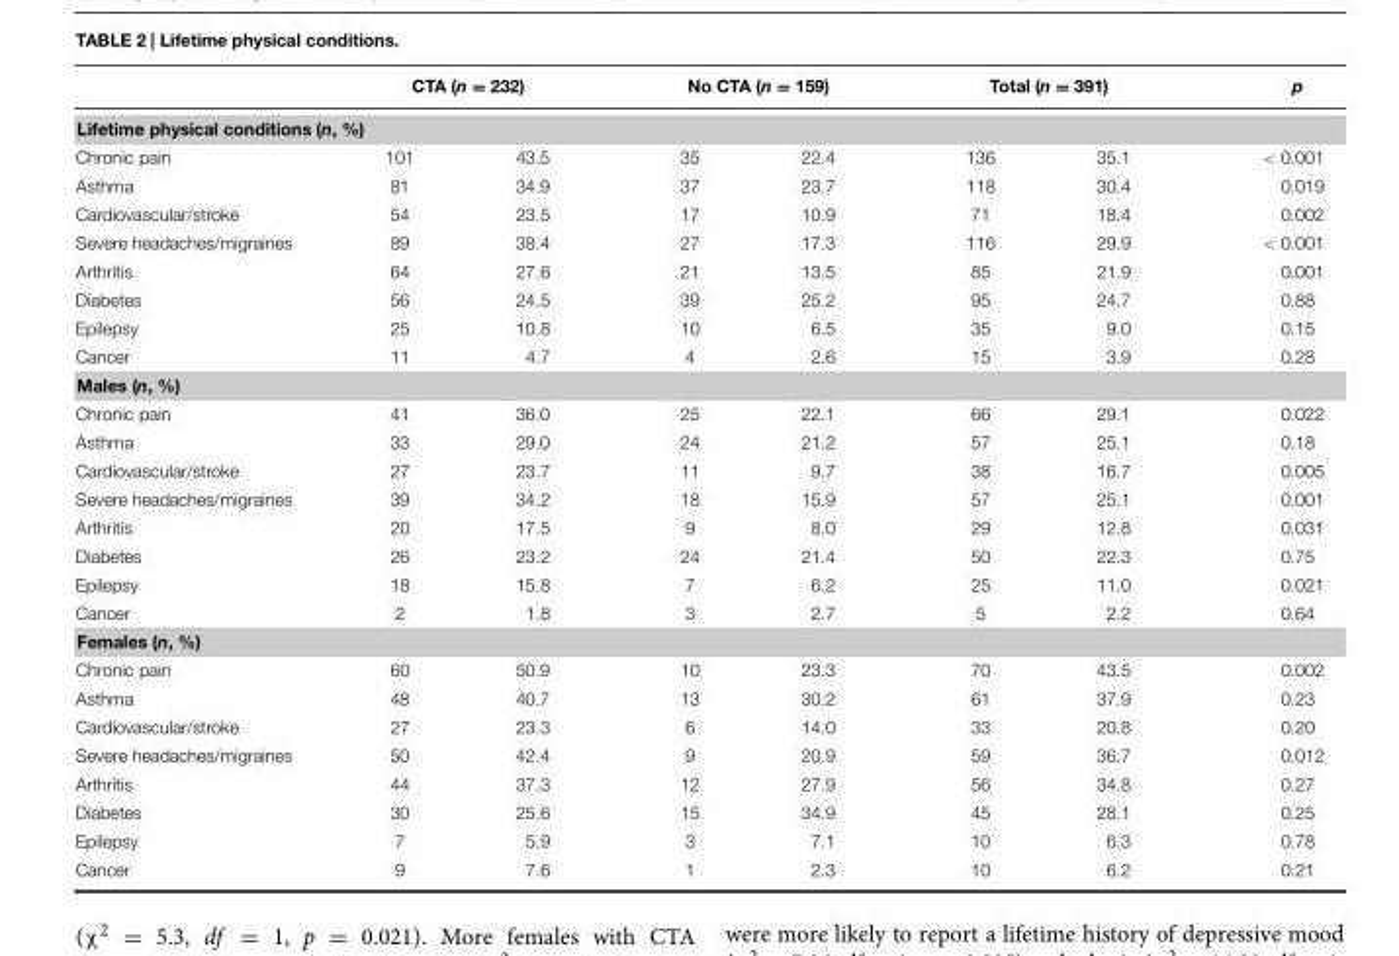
<table><thead><tr><td></td><td colspan="2">CTA (n = 232)</td><td colspan="2">No CTA (n = 159)</td><td colspan="2">Total (n = 391)</td><td>p</td></tr><tr><td colspan="8">Lifetime physical conditions (n, %)</td></tr><tr><td>Chronic pain</td><td>101</td><td>43.5</td><td>35</td><td>22.4</td><td>136</td><td>35.1</td><td>&lt; 0.001</td></tr></thead><tbody><tr><td>Asthma</td><td>81</td><td>34.9</td><td>37</td><td>23.7</td><td>118</td><td>30.4</td><td>0.019</td></tr><tr><td>Cardiovascular/stroke</td><td>54</td><td>23.5</td><td>17</td><td>10.9</td><td>71</td><td>18.4</td><td>0.002</td></tr><tr><td>Severe headaches/migraines</td><td>89</td><td>38.4</td><td>27</td><td>17.3</td><td>116</td><td>29.9</td><td>&lt; 0.001</td></tr><tr><td>Arthritis</td><td>64</td><td>27.6</td><td>21</td><td>13.5</td><td>85</td><td>21.9</td><td>0.001</td></tr><tr><td>Diabetes</td><td>56</td><td>24.5</td><td>39</td><td>25.2</td><td>95</td><td>24.7</td><td>0.88</td></tr><tr><td>Epilepsy</td><td>25</td><td>10.8</td><td>10</td><td>6.5</td><td>35</td><td>9.0</td><td>0.15</td></tr><tr><td>Cancer</td><td>11</td><td>4.7</td><td>4</td><td>2.6</td><td>15</td><td>3.9</td><td>0.28</td></tr><tr><td colspan="8">Males (n, %)</td></tr><tr><td>Chronic pain</td><td>41</td><td>36.0</td><td>25</td><td>22.1</td><td>66</td><td>29.1</td><td>0.022</td></tr><tr><td>Asthma</td><td>33</td><td>29.0</td><td>24</td><td>21.2</td><td>57</td><td>25.1</td><td>0.18</td></tr><tr><td>Cardiovascular/stroke</td><td>27</td><td>23.7</td><td>11</td><td>9.7</td><td>38</td><td>16.7</td><td>0.005</td></tr><tr><td>Severe headaches/migraines</td><td>39</td><td>34.2</td><td>18</td><td>15.9</td><td>57</td><td>25.1</td><td>0.001</td></tr><tr><td>Arthritis</td><td>20</td><td>17.5</td><td>9</td><td>8.0</td><td>29</td><td>12.8</td><td>0.031</td></tr><tr><td>Diabetes</td><td>26</td><td>23.2</td><td>24</td><td>21.4</td><td>50</td><td>22.3</td><td>0.75</td></tr><tr><td>Epilepsy</td><td>18</td><td>15.8</td><td>7</td><td>6.2</td><td>25</td><td>11.0</td><td>0.021</td></tr><tr><td>Cancer</td><td>2</td><td>1.8</td><td>3</td><td>2.7</td><td>5</td><td>2.2</td><td>0.64</td></tr><tr><td colspan="8">Females (n, %)</td></tr><tr><td>Chronic pain</td><td>60</td><td>50.9</td><td>10</td><td>23.3</td><td>70</td><td>43.5</td><td>0.002</td></tr><tr><td>Asthma</td><td>48</td><td>40.7</td><td>13</td><td>30.2</td><td>61</td><td>37.9</td><td>0.23</td></tr><tr><td>Cardiovascular/stroke</td><td>27</td><td>23.3</td><td>6</td><td>14.0</td><td>33</td><td>20.8</td><td>0.20</td></tr><tr><td>Severe headaches/migraines</td><td>50</td><td>42.4</td><td>9</td><td>20.9</td><td>59</td><td>36.7</td><td>0.012</td></tr><tr><td>Arthritis</td><td>44</td><td>37.3</td><td>12</td><td>27.9</td><td>56</td><td>34.8</td><td>0.27</td></tr><tr><td>Diabetes</td><td>30</td><td>25.6</td><td>15</td><td>34.9</td><td>45</td><td>28.1</td><td>0.25</td></tr><tr><td>Epilepsy</td><td>7</td><td>5.9</td><td>3</td><td>7.1</td><td>10</td><td>6.3</td><td>0.78</td></tr><tr><td>Cancer</td><td>9</td><td>7.6</td><td>1</td><td>2.3</td><td>10</td><td>6.2</td><td>0.21</td></tr></tbody></table>